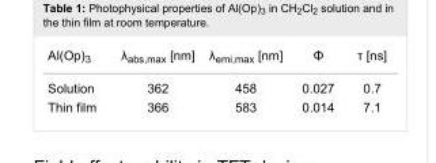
<table><tbody><tr><td>Al(Op)<sub>3</sub></td><td>λ<sub>abs,max</sub> [nm]</td><td>λ<sub>emi,max</sub> [nm]</td><td>Φ</td><td>τ [ns]</td></tr><tr><td>Solution</td><td>362</td><td>458</td><td>0.027</td><td>0.7</td></tr><tr><td>Thin film</td><td>366</td><td>583</td><td>0.014</td><td>7.1</td></tr></tbody></table>